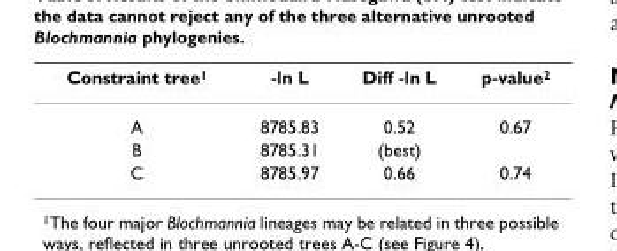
<table><thead><tr><td>Constraint tree<sup>1</sup></td><td>-ln L</td><td>Diff -ln L</td><td>p-value<sup>2</sup></td></tr></thead><tbody><tr><td>A</td><td>8785.83</td><td>0.52</td><td>0.67</td></tr><tr><td>B</td><td>8785.31</td><td>(best)</td><td></td></tr><tr><td>C</td><td>8785.97</td><td>0.66</td><td>0.74</td></tr></tbody></table>